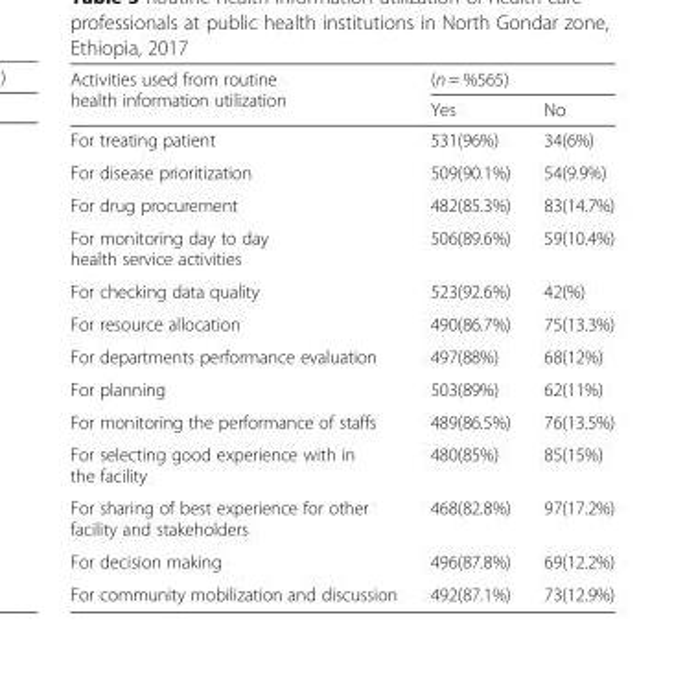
<table><thead><tr><td rowspan="2">Activities used from routine health information utilization</td><td colspan="2">(n = %565)</td></tr><tr><td>Yes</td><td>No</td></tr></thead><tbody><tr><td>For treating patient</td><td>531(96%)</td><td>34(6%)</td></tr><tr><td>For disease prioritization</td><td>509(90.1%)</td><td>54(9.9%)</td></tr><tr><td>For drug procurement</td><td>482(85.3%)</td><td>83(14.7%)</td></tr><tr><td>For monitoring day to day health service activities</td><td>506(89.6%)</td><td>59(10.4%)</td></tr><tr><td>For checking data quality</td><td>523(92.6%)</td><td>42(%)</td></tr><tr><td>For resource allocation</td><td>490(86.7%)</td><td>75(13.3%)</td></tr><tr><td>For departments performance evaluation</td><td>497(88%)</td><td>68(12%)</td></tr><tr><td>For planning</td><td>503(89%)</td><td>62(11%)</td></tr><tr><td>For monitoring the performance of staffs</td><td>489(86.5%)</td><td>76(13.5%)</td></tr><tr><td>For selecting good experience with in the facility</td><td>480(85%)</td><td>85(15%)</td></tr><tr><td>For sharing of best experience for other facility and stakeholders</td><td>468(82.8%)</td><td>97(17.2%)</td></tr><tr><td>For decision making</td><td>496(87.8%)</td><td>69(12.2%)</td></tr><tr><td>For community mobilization and discussion</td><td>492(87.1%)</td><td>73(12.9%)</td></tr></tbody></table>